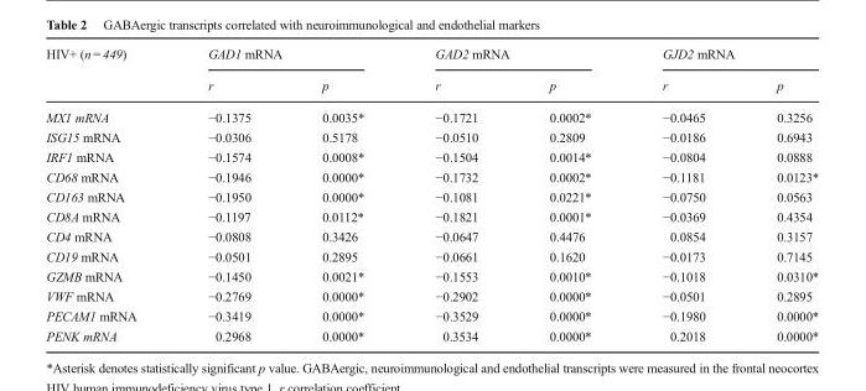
<table><thead><tr><td rowspan="2">HIV+ (n = 449)</td><td colspan="2">GAD1 mRNA</td><td colspan="2">GAD2 mRNA</td><td colspan="2">GJD2 mRNA</td></tr><tr><td>r</td><td>p</td><td>r</td><td>p</td><td>r</td><td>p</td></tr></thead><tbody><tr><td>MX1 mRNA</td><td>−0.1375</td><td>0.0035*</td><td>−0.1721</td><td>0.0002*</td><td>−0.0465</td><td>0.3256</td></tr><tr><td>ISG15 mRNA</td><td>−0.0306</td><td>0.5178</td><td>−0.0510</td><td>0.2809</td><td>−0.0186</td><td>0.6943</td></tr><tr><td>IRF1 mRNA</td><td>−0.1574</td><td>0.0008*</td><td>−0.1504</td><td>0.0014*</td><td>−0.0804</td><td>0.0888</td></tr><tr><td>CD68 mRNA</td><td>−0.1946</td><td>0.0000*</td><td>−0.1732</td><td>0.0002*</td><td>−0.1181</td><td>0.0123*</td></tr><tr><td>CD163 mRNA</td><td>−0.1950</td><td>0.0000*</td><td>−0.1081</td><td>0.0221*</td><td>−0.0750</td><td>0.0563</td></tr><tr><td>CD8A mRNA</td><td>−0.1197</td><td>0.0112*</td><td>−0.1821</td><td>0.0001*</td><td>−0.0369</td><td>0.4354</td></tr><tr><td>CD4 mRNA</td><td>−0.0808</td><td>0.3426</td><td>−0.0647</td><td>0.4476</td><td>0.0854</td><td>0.3157</td></tr><tr><td>CD19 mRNA</td><td>−0.0501</td><td>0.2895</td><td>−0.0661</td><td>0.1620</td><td>−0.0173</td><td>0.7145</td></tr><tr><td>GZMB mRNA</td><td>−0.1450</td><td>0.0021*</td><td>−0.1553</td><td>0.0010*</td><td>−0.1018</td><td>0.0310*</td></tr><tr><td>VWF mRNA</td><td>−0.2769</td><td>0.0000*</td><td>−0.2902</td><td>0.0000*</td><td>−0.0501</td><td>0.2895</td></tr><tr><td>PECAM1 mRNA</td><td>−0.3419</td><td>0.0000*</td><td>−0.3529</td><td>0.0000*</td><td>−0.1980</td><td>0.0000*</td></tr><tr><td>PENK mRNA</td><td>0.2968</td><td>0.0000*</td><td>0.3534</td><td>0.0000*</td><td>0.2018</td><td>0.0000*</td></tr></tbody></table>